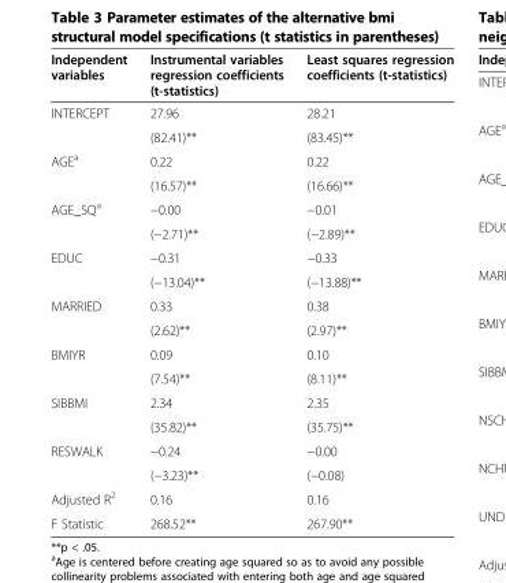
<table><thead><tr><td>Independent variables</td><td>Instrumental variables regression coefficients (t-statistics)</td><td>Least squares regression coefficients (t-statistics)</td></tr></thead><tbody><tr><td rowspan="2">INTERCEPT</td><td>27.96</td><td>28.21</td></tr><tr><td>(82.41)**</td><td>(83.45)**</td></tr><tr><td rowspan="2">AGE<sup>a</sup></td><td>0.22</td><td>0.22</td></tr><tr><td>(16.57)**</td><td>(16.66)**</td></tr><tr><td rowspan="2">AGE_SQ<sup>a</sup></td><td>−0.00</td><td>−0.01</td></tr><tr><td>(−2.71)**</td><td>(−2.89)**</td></tr><tr><td rowspan="2">EDUC</td><td>−0.31</td><td>−0.33</td></tr><tr><td>(−13.04)**</td><td>(−13.88)**</td></tr><tr><td rowspan="2">MARRIED</td><td>0.33</td><td>0.38</td></tr><tr><td>(2.62)**</td><td>(2.97)**</td></tr><tr><td rowspan="2">BMIYR</td><td>0.09</td><td>0.10</td></tr><tr><td>(7.54)**</td><td>(8.11)**</td></tr><tr><td rowspan="2">SIBBMI</td><td>2.34</td><td>2.35</td></tr><tr><td>(35.82)**</td><td>(35.75)**</td></tr><tr><td rowspan="2">RESWALK</td><td>−0.24</td><td>−0.00</td></tr><tr><td>(−3.23)**</td><td>(−0.08)</td></tr><tr><td>Adjusted R<sup>2</sup></td><td>0.16</td><td>0.16</td></tr><tr><td>F Statistic</td><td>268.52**</td><td>267.90**</td></tr></tbody></table>